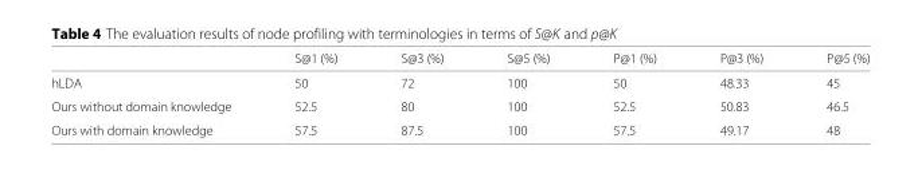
<table><thead><tr><td></td><td>S@1 (%)</td><td>S@3 (%)</td><td>S@5 (%)</td><td>P@1 (%)</td><td>P@3 (%)</td><td>P@5 (%)</td></tr></thead><tbody><tr><td>hLDA</td><td>50</td><td>72</td><td>100</td><td>50</td><td>48.33</td><td>45</td></tr><tr><td>Ours without domain knowledge</td><td>52.5</td><td>80</td><td>100</td><td>52.5</td><td>50.83</td><td>46.5</td></tr><tr><td>Ours with domain knowledge</td><td>57.5</td><td>87.5</td><td>100</td><td>57.5</td><td>49.17</td><td>48</td></tr></tbody></table>